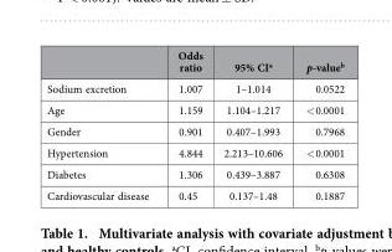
<table><thead><tr><td></td><td>Odds ratio</td><td>95% CI<sup>a</sup></td><td>p-value<sup>b</sup></td></tr></thead><tbody><tr><td>Sodium excretion</td><td>1.007</td><td>1–1.014</td><td>0.0522</td></tr><tr><td>Age</td><td>1.159</td><td>1.104–1.217</td><td>&lt; 0.0001</td></tr><tr><td>Gender</td><td>0.901</td><td>0.407–1.993</td><td>0.7968</td></tr><tr><td>Hypertension</td><td>4.844</td><td>2.213–10.606</td><td>&lt; 0.0001</td></tr><tr><td>Diabetes</td><td>1.306</td><td>0.439–3.887</td><td>0.6308</td></tr><tr><td>Cardiovascular disease</td><td>0.45</td><td>0.137–1.48</td><td>0.1887</td></tr></tbody></table>